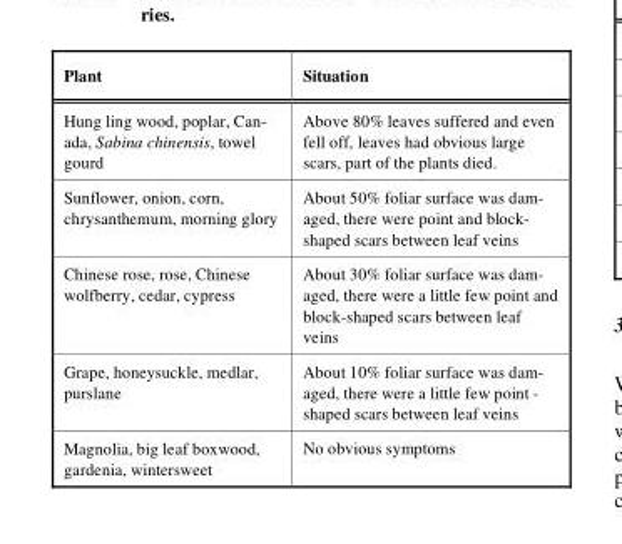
<table><thead><tr><td>Plant</td><td>Situation</td></tr></thead><tbody><tr><td>Hung ling wood, poplar, Can- ada, Sabina chinensis, towel gourd</td><td>Above 80% leaves suffered and even fell off, leaves had obvious large scars, part of the plants died.</td></tr><tr><td>Sunflower, onion, corn, chrysanthemum, morning glory</td><td>About 50% foliar surface was dam- aged, there were point and block- shaped scars between leaf veins</td></tr><tr><td>Chinese rose, rose, Chinese wolfberry, cedar, cypress</td><td>About 30% foliar surface was dam- aged, there were a little few point and block-shaped scars between leaf veins</td></tr><tr><td>Grape, honeysuckle, medlar, purslane</td><td>About 10% foliar surface was dam- aged, there were a little few point - shaped scars between leaf veins</td></tr><tr><td>Magnolia, big leaf boxwood, gardenia, wintersweet</td><td>No obvious symptoms</td></tr></tbody></table>